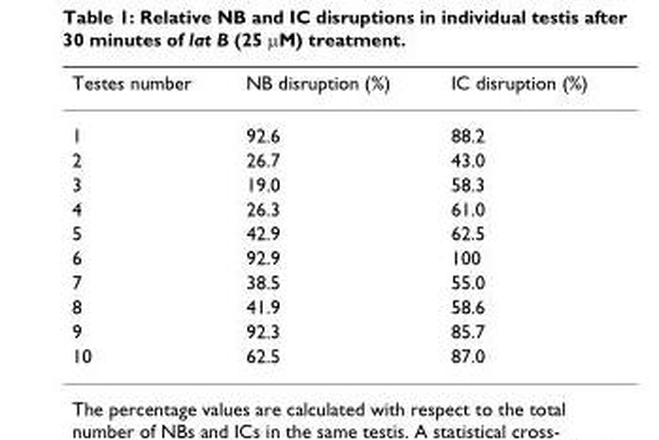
<table><thead><tr><td>Testes number</td><td>NB disruption (%)</td><td>IC disruption (%)</td></tr></thead><tbody><tr><td>1</td><td>92.6</td><td>88.2</td></tr><tr><td>2</td><td>26.7</td><td>43.0</td></tr><tr><td>3</td><td>19.0</td><td>58.3</td></tr><tr><td>4</td><td>26.3</td><td>61.0</td></tr><tr><td>5</td><td>42.9</td><td>62.5</td></tr><tr><td>6</td><td>92.9</td><td>100</td></tr><tr><td>7</td><td>38.5</td><td>55.0</td></tr><tr><td>8</td><td>41.9</td><td>58.6</td></tr><tr><td>9</td><td>92.3</td><td>85.7</td></tr><tr><td>10</td><td>62.5</td><td>87.0</td></tr></tbody></table>